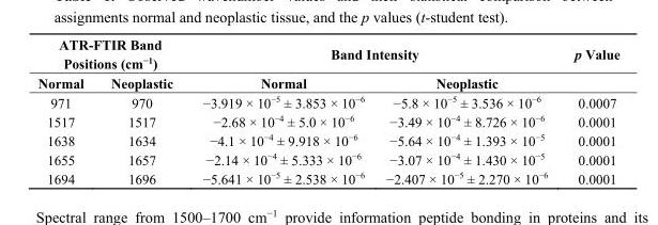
<table><thead><tr><td colspan="2">ATR-FTIR Band Positions (cm<sup>−1</sup>)</td><td colspan="2">Band Intensity</td><td rowspan="2">p Value</td></tr><tr><td>Normal</td><td>Neoplastic</td><td>Normal</td><td>Neoplastic</td></tr></thead><tbody><tr><td>971</td><td>970</td><td>−3.919 × 10<sup>−5</sup> ± 3.853 × 10<sup>−6</sup></td><td>−5.8 × 10<sup>−5</sup> ± 3.536 × 10<sup>−6</sup></td><td>0.0007</td></tr><tr><td>1517</td><td>1517</td><td>−2.68 × 10<sup>−4</sup> ± 5.0 × 10<sup>−6</sup></td><td>−3.49 × 10<sup>−4</sup> ± 8.726 × 10<sup>−6</sup></td><td>0.0001</td></tr><tr><td>1638</td><td>1634</td><td>−4.1 × 10<sup>−4</sup> ± 9.918 × 10<sup>−6</sup></td><td>−5.64 × 10<sup>−4</sup> ± 1.393 × 10<sup>−5</sup></td><td>0.0001</td></tr><tr><td>1655</td><td>1657</td><td>−2.14 × 10<sup>−4</sup> ± 5.333 × 10<sup>−6</sup></td><td>−3.07 × 10<sup>−4</sup> ± 1.430 × 10<sup>−5</sup></td><td>0.0001</td></tr><tr><td>1694</td><td>1696</td><td>−5.641 × 10<sup>−5</sup> ± 2.538 × 10<sup>−6</sup></td><td>−2.407 × 10<sup>−5</sup> ± 2.270 × 10<sup>−6</sup></td><td>0.0001</td></tr></tbody></table>